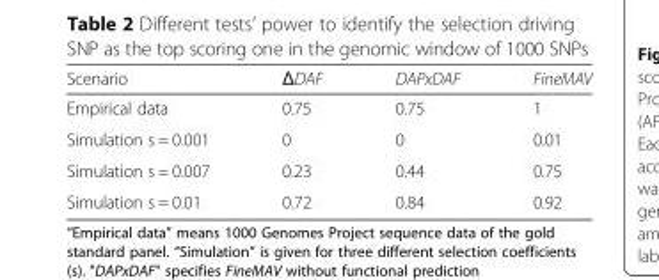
<table><thead><tr><td>Scenario</td><td>ΔDAF</td><td>DAPxDAF</td><td>FineMAV</td></tr></thead><tbody><tr><td>Empirical data</td><td>0.75</td><td>0.75</td><td>1</td></tr><tr><td>Simulation s = 0.001</td><td>0</td><td>0</td><td>0.01</td></tr><tr><td>Simulation s = 0.007</td><td>0.23</td><td>0.44</td><td>0.75</td></tr><tr><td>Simulation s = 0.01</td><td>0.72</td><td>0.84</td><td>0.92</td></tr></tbody></table>